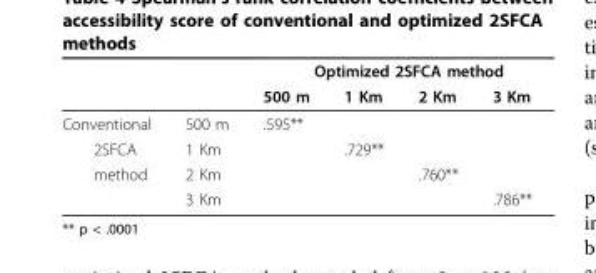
<table><thead><tr><td rowspan="2"></td><td rowspan="2"></td><td colspan="4">Optimized 2SFCA method</td></tr><tr><td>500 m</td><td>1 Km</td><td>2 Km</td><td>3 Km</td></tr></thead><tbody><tr><td>Conventional</td><td>500 m</td><td>.595**</td><td></td><td></td><td></td></tr><tr><td>2SFCA</td><td>1 Km</td><td></td><td>.729**</td><td></td><td></td></tr><tr><td rowspan="2">method</td><td>2 Km</td><td></td><td></td><td>.760**</td><td></td></tr><tr><td>3 Km</td><td></td><td></td><td></td><td>.786**</td></tr></tbody></table>